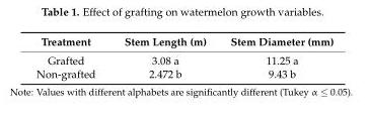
<table><thead><tr><td>Treatment</td><td>Stem Length (m)</td><td>Stem Diameter (mm)</td></tr></thead><tbody><tr><td>Grafted</td><td>3.08 a</td><td>11.25 a</td></tr><tr><td>Non-grafted</td><td>2.472 b</td><td>9.43 b</td></tr></tbody></table>